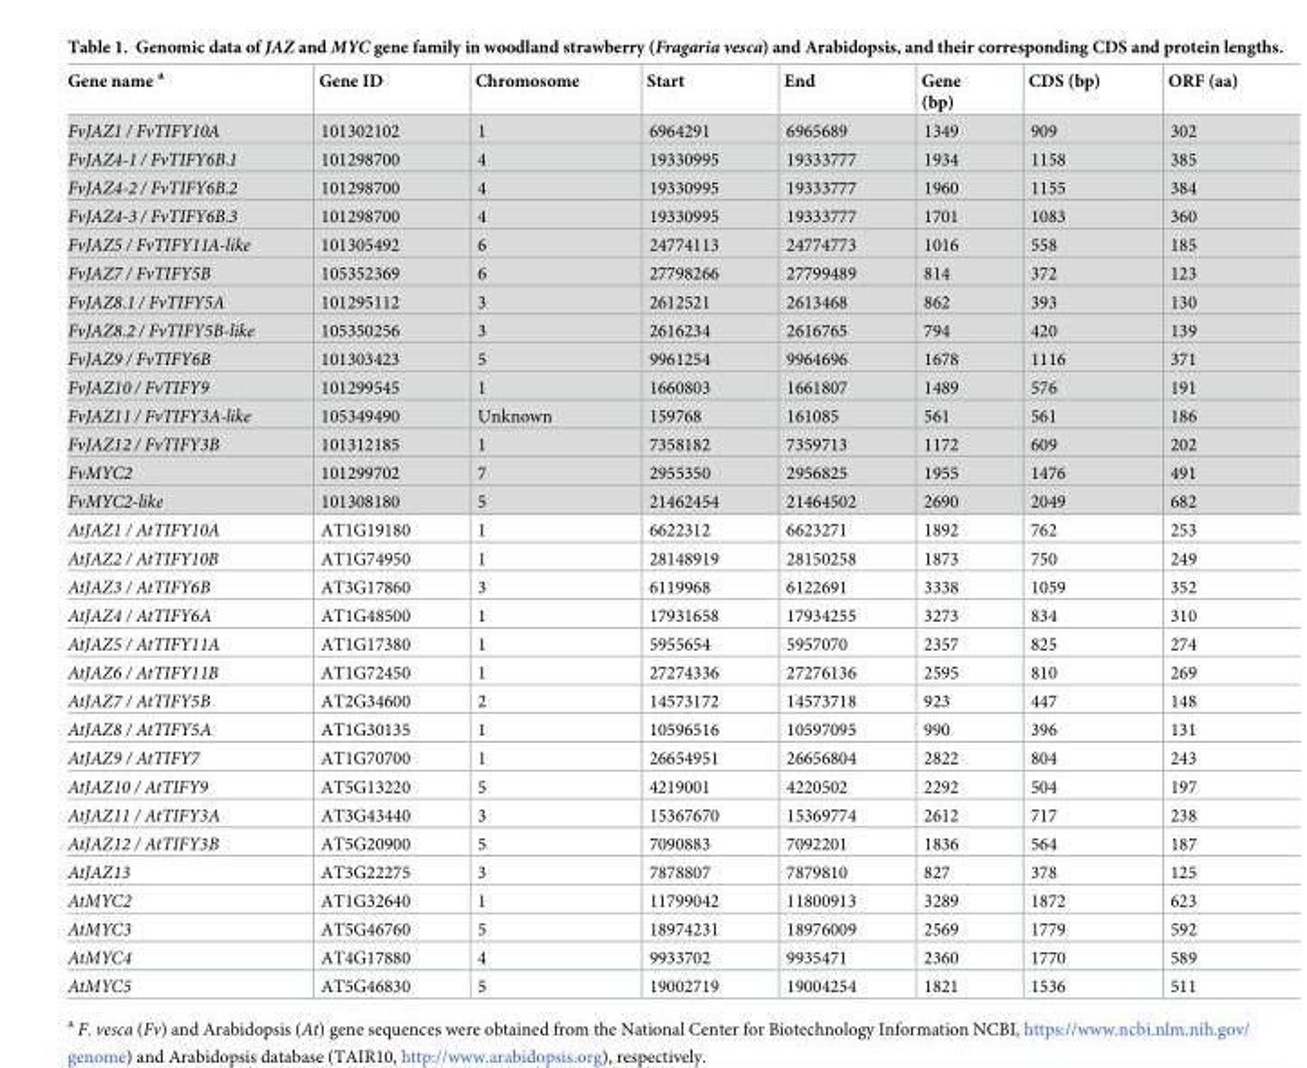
<table><thead><tr><td>Gene name <sup>a</sup></td><td>Gene ID</td><td>Chromosome</td><td>Start</td><td>End</td><td>Gene (bp)</td><td>CDS (bp)</td><td>ORF (aa)</td></tr></thead><tbody><tr><td>FvJAZ1 / FvTIFY10A</td><td>101302102</td><td>1</td><td>6964291</td><td>6965689</td><td>1349</td><td>909</td><td>302</td></tr><tr><td>FvJAZ4-1 / FvTIFY6B.1</td><td>101298700</td><td>4</td><td>19330995</td><td>19333777</td><td>1934</td><td>1158</td><td>385</td></tr><tr><td>FvJAZ4-2 / FvTIFY6B.2</td><td>101298700</td><td>4</td><td>19330995</td><td>19333777</td><td>1960</td><td>1155</td><td>384</td></tr><tr><td>FvJAZ4-3 / FvTIFY6B.3</td><td>101298700</td><td>4</td><td>19330995</td><td>19333777</td><td>1701</td><td>1083</td><td>360</td></tr><tr><td>FvJAZ5 / FvTIFY11A-like</td><td>101305492</td><td>6</td><td>24774113</td><td>24774773</td><td>1016</td><td>558</td><td>185</td></tr><tr><td>FvJAZ7 / FvTIFY5B</td><td>105352369</td><td>6</td><td>27798266</td><td>27799489</td><td>814</td><td>372</td><td>123</td></tr><tr><td>FvJAZ8.1 / FvTIFY5A</td><td>101295112</td><td>3</td><td>2612521</td><td>2613468</td><td>862</td><td>393</td><td>130</td></tr><tr><td>FvJAZ8.2 / FvTIFY5B-like</td><td>105350256</td><td>3</td><td>2616234</td><td>2616765</td><td>794</td><td>420</td><td>139</td></tr><tr><td>FvJAZ9 / FvTIFY6B</td><td>101303423</td><td>5</td><td>9961254</td><td>9964696</td><td>1678</td><td>1116</td><td>371</td></tr><tr><td>FvJAZ10 / FvTIFY9</td><td>101299545</td><td>1</td><td>1660803</td><td>1661807</td><td>1489</td><td>576</td><td>191</td></tr><tr><td>FvJAZ11 / FvTIFY3A-like</td><td>105349490</td><td>Unknown</td><td>159768</td><td>161085</td><td>561</td><td>561</td><td>186</td></tr><tr><td>FvJAZ12 / FvTIFY3B</td><td>101312185</td><td>1</td><td>7358182</td><td>7359713</td><td>1172</td><td>609</td><td>202</td></tr><tr><td>FvMYC2</td><td>101299702</td><td>7</td><td>2955350</td><td>2956825</td><td>1955</td><td>1476</td><td>491</td></tr><tr><td>FvMYC2-like</td><td>101308180</td><td>5</td><td>21462454</td><td>21464502</td><td>2690</td><td>2049</td><td>682</td></tr><tr><td>AtJAZ1 / AtTIFY10A</td><td>AT1G19180</td><td>1</td><td>6622312</td><td>6623271</td><td>1892</td><td>762</td><td>253</td></tr><tr><td>AtJAZ2 / AtTIFY10B</td><td>AT1G74950</td><td>1</td><td>28148919</td><td>28150258</td><td>1873</td><td>750</td><td>249</td></tr><tr><td>AtJAZ3 / AtTIFY6B</td><td>AT3G17860</td><td>3</td><td>6119968</td><td>6122691</td><td>3338</td><td>1059</td><td>352</td></tr><tr><td>AtJAZ4 / AtTIFY6A</td><td>AT1G48500</td><td>1</td><td>17931658</td><td>17934255</td><td>3273</td><td>834</td><td>310</td></tr><tr><td>AtJAZ5 / AtTIFY11A</td><td>AT1G17380</td><td>1</td><td>5955654</td><td>5957070</td><td>2357</td><td>825</td><td>274</td></tr><tr><td>AtJAZ6 / AtTIFY11B</td><td>AT1G72450</td><td>1</td><td>27274336</td><td>27276136</td><td>2595</td><td>810</td><td>269</td></tr><tr><td>AtJAZ7 / AtTIFY5B</td><td>AT2G34600</td><td>2</td><td>14573172</td><td>14573718</td><td>923</td><td>447</td><td>148</td></tr><tr><td>AtJAZ8 / AtTIFY5A</td><td>AT1G30135</td><td>1</td><td>10596516</td><td>10597095</td><td>990</td><td>396</td><td>131</td></tr><tr><td>AtJAZ9 / AtTIFY7</td><td>AT1G70700</td><td>1</td><td>26654951</td><td>26656804</td><td>2822</td><td>804</td><td>243</td></tr><tr><td>AtJAZ10 / AtTIFY9</td><td>AT5G13220</td><td>5</td><td>4219001</td><td>4220502</td><td>2292</td><td>504</td><td>197</td></tr><tr><td>AtJAZ11 / AtTIFY3A</td><td>AT3G43440</td><td>3</td><td>15367670</td><td>15369774</td><td>2612</td><td>717</td><td>238</td></tr><tr><td>AtJAZ12 / AtTIFY3B</td><td>AT5G20900</td><td>5</td><td>7090883</td><td>7092201</td><td>1836</td><td>564</td><td>187</td></tr><tr><td>AtJAZ13</td><td>AT3G22275</td><td>3</td><td>7878807</td><td>7879810</td><td>827</td><td>378</td><td>125</td></tr><tr><td>AtMYC2</td><td>AT1G32640</td><td>1</td><td>11799042</td><td>11800913</td><td>3289</td><td>1872</td><td>623</td></tr><tr><td>AtMYC3</td><td>AT5G46760</td><td>5</td><td>18974231</td><td>18976009</td><td>2569</td><td>1779</td><td>592</td></tr><tr><td>AtMYC4</td><td>AT4G17880</td><td>4</td><td>9933702</td><td>9935471</td><td>2360</td><td>1770</td><td>589</td></tr><tr><td>AtMYC5</td><td>AT5G46830</td><td>5</td><td>19002719</td><td>19004254</td><td>1821</td><td>1536</td><td>511</td></tr></tbody></table>